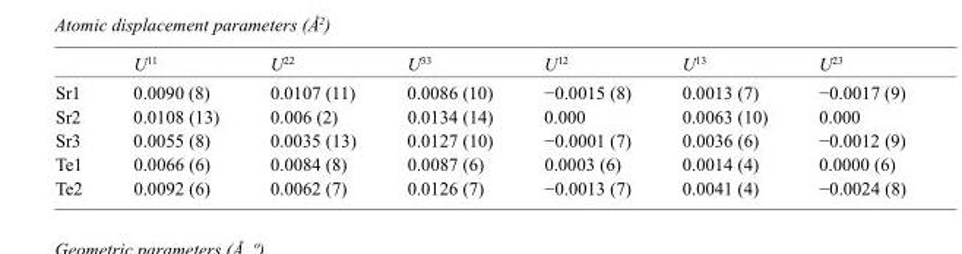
<table><thead><tr><td></td><td>U<sup>11</sup></td><td>U<sup>22</sup></td><td>U<sup>33</sup></td><td>U<sup>12</sup></td><td>U<sup>13</sup></td><td>U<sup>23</sup></td></tr></thead><tbody><tr><td>Sr1</td><td>0.0090 (8)</td><td>0.0107 (11)</td><td>0.0086 (10)</td><td>−0.0015 (8)</td><td>0.0013 (7)</td><td>−0.0017 (9)</td></tr><tr><td>Sr2</td><td>0.0108 (13)</td><td>0.006 (2)</td><td>0.0134 (14)</td><td>0.000</td><td>0.0063 (10)</td><td>0.000</td></tr><tr><td>Sr3</td><td>0.0055 (8)</td><td>0.0035 (13)</td><td>0.0127 (10)</td><td>−0.0001 (7)</td><td>0.0036 (6)</td><td>−0.0012 (9)</td></tr><tr><td>Te1</td><td>0.0066 (6)</td><td>0.0084 (8)</td><td>0.0087 (6)</td><td>0.0003 (6)</td><td>0.0014 (4)</td><td>0.0000 (6)</td></tr><tr><td>Te2</td><td>0.0092 (6)</td><td>0.0062 (7)</td><td>0.0126 (7)</td><td>−0.0013 (7)</td><td>0.0041 (4)</td><td>−0.0024 (8)</td></tr></tbody></table>